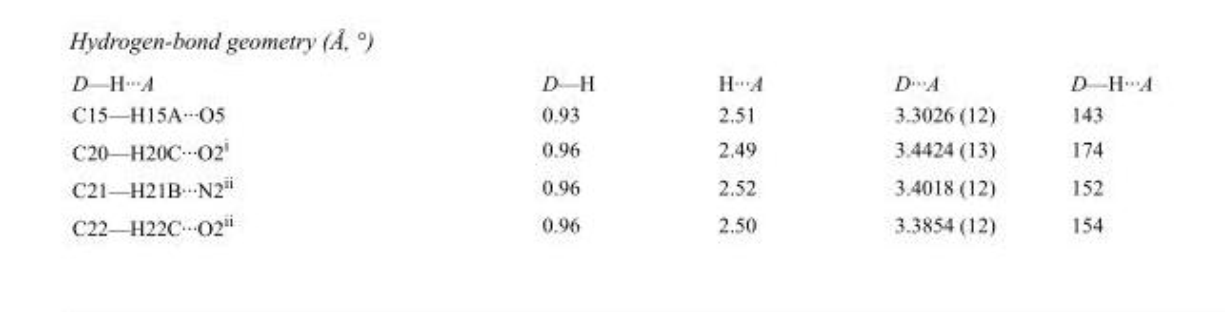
<table><tbody><tr><td>D—H···A</td><td>D—H</td><td>H···A</td><td>D···A</td><td>D—H···A</td></tr><tr><td>C15—H15A···O5</td><td>0.93</td><td>2.51</td><td>3.3026 (12)</td><td>143</td></tr><tr><td>C20—H20C···O2<sup>i</sup></td><td>0.96</td><td>2.49</td><td>3.4424 (13)</td><td>174</td></tr><tr><td>C21—H21B···N2<sup>ii</sup></td><td>0.96</td><td>2.52</td><td>3.4018 (12)</td><td>152</td></tr><tr><td>C22—H22C···O2<sup>ii</sup></td><td>0.96</td><td>2.50</td><td>3.3854 (12)</td><td>154</td></tr></tbody></table>